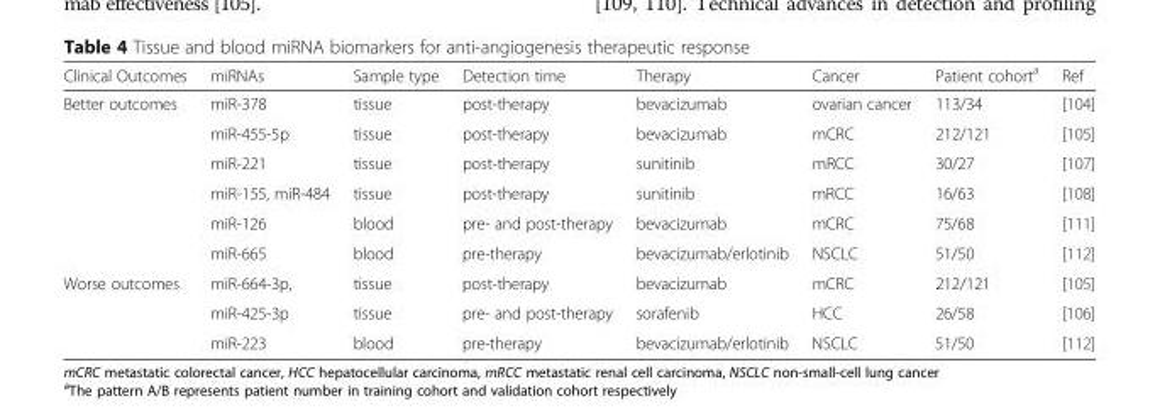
<table><thead><tr><td>Clinical Outcomes</td><td>miRNAs</td><td>Sample type</td><td>Detection time</td><td>Therapy</td><td>Cancer</td><td>Patient cohort<sup>a</sup></td><td>Ref</td></tr></thead><tbody><tr><td rowspan="6">Better outcomes</td><td>miR-378</td><td>tissue</td><td>post-therapy</td><td>bevacizumab</td><td>ovarian cancer</td><td>113/34</td><td>[104]</td></tr><tr><td>miR-455-5p</td><td>tissue</td><td>post-therapy</td><td>bevacizumab</td><td>mCRC</td><td>212/121</td><td>[105]</td></tr><tr><td>miR-221</td><td>tissue</td><td>post-therapy</td><td>sunitinib</td><td>mRCC</td><td>30/27</td><td>[107]</td></tr><tr><td>miR-155, miR-484</td><td>tissue</td><td>post-therapy</td><td>sunitinib</td><td>mRCC</td><td>16/63</td><td>[108]</td></tr><tr><td>miR-126</td><td>blood</td><td>pre- and post-therapy</td><td>bevacizumab</td><td>mCRC</td><td>75/68</td><td>[111]</td></tr><tr><td>miR-665</td><td>blood</td><td>pre-therapy</td><td>bevacizumab/erlotinib</td><td>NSCLC</td><td>51/50</td><td>[112]</td></tr><tr><td rowspan="3">Worse outcomes</td><td>miR-664-3p,</td><td>tissue</td><td>post-therapy</td><td>bevacizumab</td><td>mCRC</td><td>212/121</td><td>[105]</td></tr><tr><td>miR-425-3p</td><td>tissue</td><td>pre- and post-therapy</td><td>sorafenib</td><td>HCC</td><td>26/58</td><td>[106]</td></tr><tr><td>miR-223</td><td>blood</td><td>pre-therapy</td><td>bevacizumab/erlotinib</td><td>NSCLC</td><td>51/50</td><td>[112]</td></tr></tbody></table>